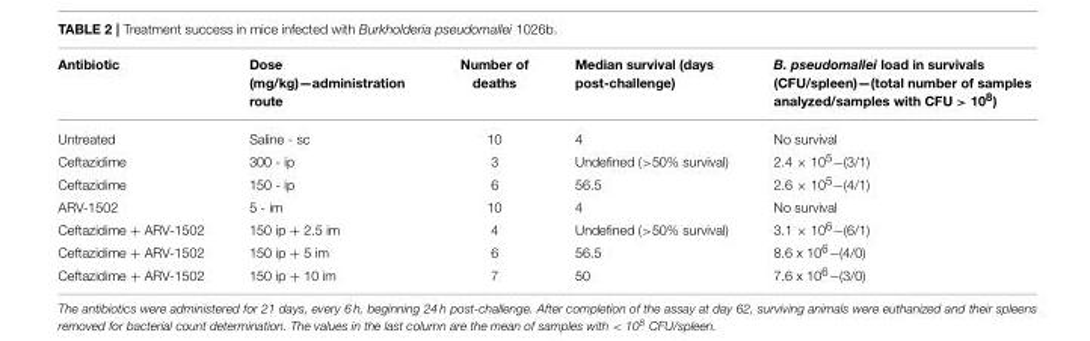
<table><thead><tr><td>Antibiotic</td><td>Dose (mg/kg)—administration route</td><td>Number of deaths</td><td>Median survival (days post-challenge)</td><td>B. pseudomallei load in survivals (CFU/spleen)—(total number of samples analyzed/samples with CFU &gt; 10<sup>8</sup>)</td></tr></thead><tbody><tr><td>Untreated</td><td>Saline - sc</td><td>10</td><td>4</td><td>No survival</td></tr><tr><td>Ceftazidime</td><td>300 - ip</td><td>3</td><td>Undefined (&gt;50% survival)</td><td>2.4 × 10<sup>5</sup>−(3/1)</td></tr><tr><td>Ceftazidime</td><td>150 - ip</td><td>6</td><td>56.5</td><td>2.6 × 10<sup>5</sup>−(4/1)</td></tr><tr><td>ARV-1502</td><td>5 - im</td><td>10</td><td>4</td><td>No survival</td></tr><tr><td>Ceftazidime + ARV-1502</td><td>150 ip + 2.5 im</td><td>4</td><td>Undefined (&gt;50% survival)</td><td>3.1 × 10<sup>6</sup>−(6/1)</td></tr><tr><td>Ceftazidime + ARV-1502</td><td>150 ip + 5 im</td><td>6</td><td>56.5</td><td>8.6 x 10<sup>6</sup>−(4/0)</td></tr><tr><td>Ceftazidime + ARV-1502</td><td>150 ip + 10 im</td><td>7</td><td>50</td><td>7.6 x 10<sup>6</sup>−(3/0)</td></tr></tbody></table>